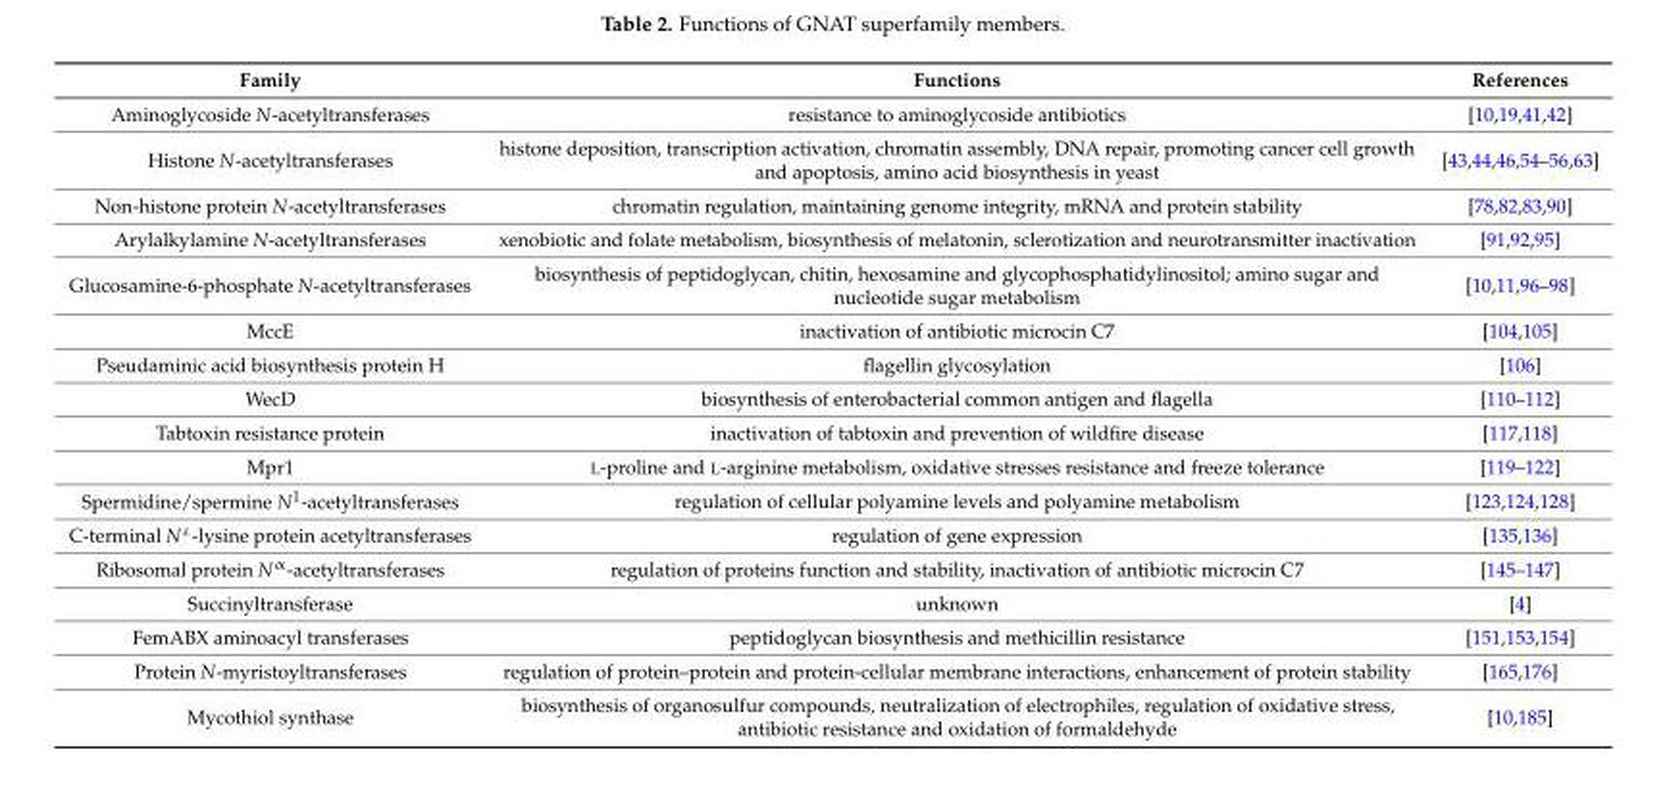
<table><thead><tr><td>Family</td><td>Functions</td><td>References</td></tr></thead><tbody><tr><td>Aminoglycoside N-acetyltransferases</td><td>resistance to aminoglycoside antibiotics</td><td>[10,19,41,42]</td></tr><tr><td>Histone N-acetyltransferases</td><td>histone deposition, transcription activation, chromatin assembly, DNA repair, promoting cancer cell growth and apoptosis, amino acid biosynthesis in yeast</td><td>[43,44,46,54–56,63]</td></tr><tr><td>Non-histone protein N-acetyltransferases</td><td>chromatin regulation, maintaining genome integrity, mRNA and protein stability</td><td>[78,82,83,90]</td></tr><tr><td>Arylalkylamine N-acetyltransferases</td><td>xenobiotic and folate metabolism, biosynthesis of melatonin, sclerotization and neurotransmitter inactivation</td><td>[91,92,95]</td></tr><tr><td>Glucosamine-6-phosphate N-acetyltransferases</td><td>biosynthesis of peptidoglycan, chitin, hexosamine and glycophosphatidylinositol; amino sugar and nucleotide sugar metabolism</td><td>[10,11,96–98]</td></tr><tr><td>MccE</td><td>inactivation of antibiotic microcin C7</td><td>[104,105]</td></tr><tr><td>Pseudaminic acid biosynthesis protein H</td><td>flagellin glycosylation</td><td>[106]</td></tr><tr><td>WecD</td><td>biosynthesis of enterobacterial common antigen and flagella</td><td>[110–112]</td></tr><tr><td>Tabtoxin resistance protein</td><td>inactivation of tabtoxin and prevention of wildfire disease</td><td>[117,118]</td></tr><tr><td>Mpr1</td><td>L-proline and L-arginine metabolism, oxidative stresses resistance and freeze tolerance</td><td>[119–122]</td></tr><tr><td>Spermidine/spermine N<sup>1</sup>-acetyltransferases</td><td>regulation of cellular polyamine levels and polyamine metabolism</td><td>[123,124,128]</td></tr><tr><td>C-terminal N<sup>ε</sup>-lysine protein acetyltransferases</td><td>regulation of gene expression</td><td>[135,136]</td></tr><tr><td>Ribosomal protein N<sup>α</sup>-acetyltransferases</td><td>regulation of proteins function and stability, inactivation of antibiotic microcin C7</td><td>[145–147]</td></tr><tr><td>Succinyltransferase</td><td>unknown</td><td>[4]</td></tr><tr><td>FemABX aminoacyl transferases</td><td>peptidoglycan biosynthesis and methicillin resistance</td><td>[151,153,154]</td></tr><tr><td>Protein N-myristoyltransferases</td><td>regulation of protein–protein and protein-cellular membrane interactions, enhancement of protein stability</td><td>[165,176]</td></tr><tr><td>Mycothiol synthase</td><td>biosynthesis of organosulfur compounds, neutralization of electrophiles, regulation of oxidative stress, antibiotic resistance and oxidation of formaldehyde</td><td>[10,185]</td></tr></tbody></table>